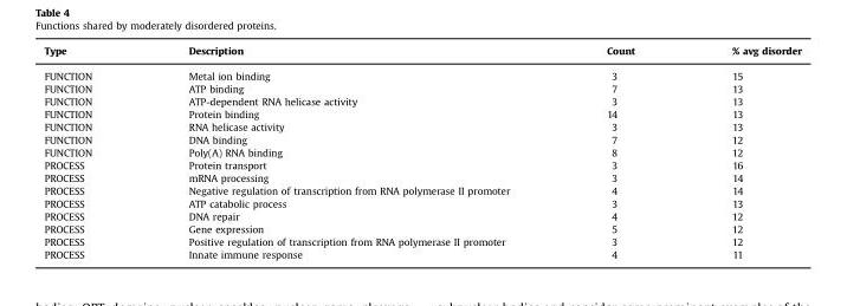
<table><thead><tr><td>Type</td><td>Description</td><td>Count</td><td>% avg disorder</td></tr></thead><tbody><tr><td>FUNCTION</td><td>Metal ion binding</td><td>3</td><td>15</td></tr><tr><td>FUNCTION</td><td>ATP binding</td><td>7</td><td>13</td></tr><tr><td>FUNCTION</td><td>ATP-dependent RNA helicase activity</td><td>3</td><td>13</td></tr><tr><td>FUNCTION</td><td>Protein binding</td><td>14</td><td>13</td></tr><tr><td>FUNCTION</td><td>RNA helicase activity</td><td>3</td><td>13</td></tr><tr><td>FUNCTION</td><td>DNA binding</td><td>7</td><td>12</td></tr><tr><td>FUNCTION</td><td>Poly(A) RNA binding</td><td>8</td><td>12</td></tr><tr><td>PROCESS</td><td>Protein transport</td><td>3</td><td>16</td></tr><tr><td>PROCESS</td><td>mRNA processing</td><td>3</td><td>14</td></tr><tr><td>PROCESS</td><td>Negative regulation of transcription from RNA polymerase II promoter</td><td>4</td><td>14</td></tr><tr><td>PROCESS</td><td>ATP catabolic process</td><td>3</td><td>13</td></tr><tr><td>PROCESS</td><td>DNA repair</td><td>4</td><td>12</td></tr><tr><td>PROCESS</td><td>Gene expression</td><td>5</td><td>12</td></tr><tr><td>PROCESS</td><td>Positive regulation of transcription from RNA polymerase II promoter</td><td>3</td><td>12</td></tr><tr><td>PROCESS</td><td>Innate immune response</td><td>4</td><td>11</td></tr></tbody></table>